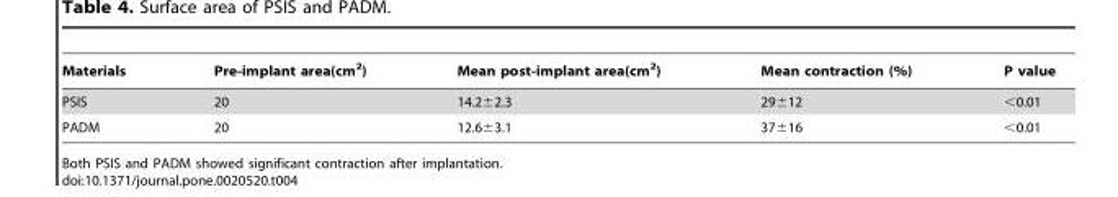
<table><thead><tr><td>Materials</td><td>Pre-implant area(cm<sup>2</sup>)</td><td>Mean post-implant area(cm<sup>2</sup>)</td><td>Mean contraction (%)</td><td>P value</td></tr></thead><tbody><tr><td>PSIS</td><td>20</td><td>14.2±2.3</td><td>29±12</td><td>&lt;0.01</td></tr><tr><td>PADM</td><td>20</td><td>12.6±3.1</td><td>37±16</td><td>&lt;0.01</td></tr></tbody></table>